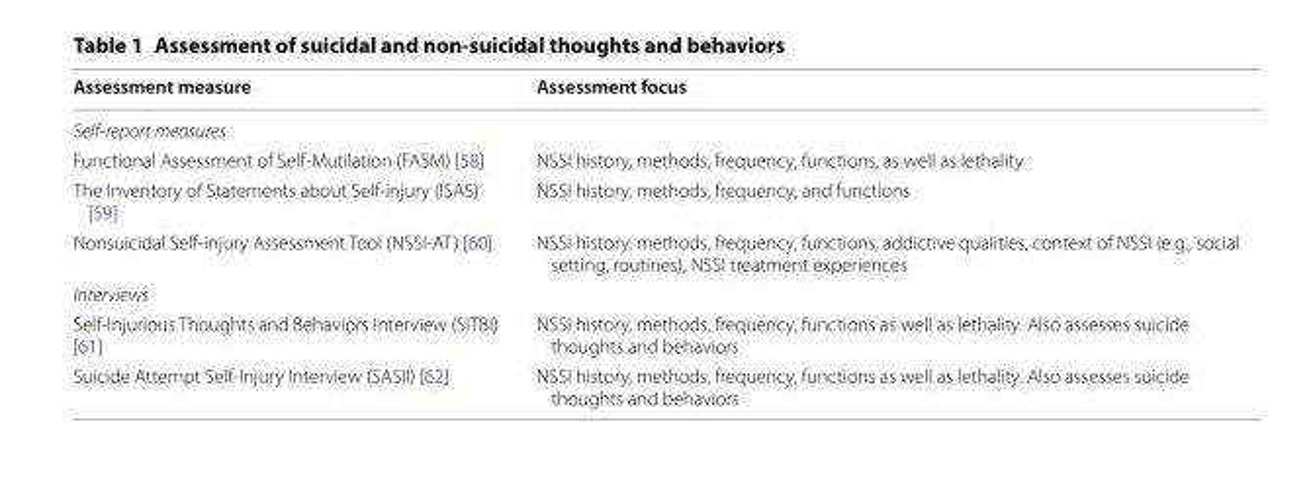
<table><thead><tr><td>Assessment measure</td><td>Assessment focus</td></tr></thead><tbody><tr><td colspan="2">Self-report measures</td></tr><tr><td>Functional Assessment of Self‑Mutilation (FASM) [58]</td><td>NSSI history, methods, frequency, functions, as well as lethality</td></tr><tr><td>The Inventory of Statements about Self‑injury (ISAS) [59]</td><td>NSSI history, methods, frequency, and functions</td></tr><tr><td>Nonsuicidal Self‑injury Assessment Tool (NSSI‑AT) [60]</td><td>NSSI history, methods, frequency, functions, addictive qualities, context of NSSI (e.g., social setting, routines), NSSI treatment experiences</td></tr><tr><td colspan="2">Interviews</td></tr><tr><td>Self‑Injurious Thoughts and Behaviors Interview (SITBI) [61]</td><td>NSSI history, methods, frequency, functions as well as lethality. Also assesses suicide thoughts and behaviors</td></tr><tr><td>Suicide Attempt Self‑Injury Interview (SASII) [62]</td><td>NSSI history, methods, frequency, functions as well as lethality. Also assesses suicide thoughts and behaviors</td></tr></tbody></table>